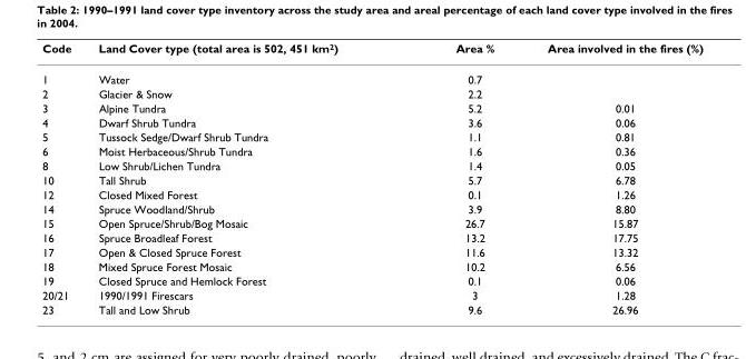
<table><thead><tr><td>Code</td><td>Land Cover type (total area is 502, 451 km<sup>2</sup>)</td><td>Area %</td><td>Area involved in the fires (%)</td></tr></thead><tbody><tr><td>1</td><td>Water</td><td>0.7</td><td></td></tr><tr><td>2</td><td>Glacier &amp; Snow</td><td>2.2</td><td></td></tr><tr><td>3</td><td>Alpine Tundra</td><td>5.2</td><td>0.01</td></tr><tr><td>4</td><td>Dwarf Shrub Tundra</td><td>3.6</td><td>0.06</td></tr><tr><td>5</td><td>Tussock Sedge/Dwarf Shrub Tundra</td><td>1.1</td><td>0.81</td></tr><tr><td>6</td><td>Moist Herbaceous/Shrub Tundra</td><td>1.6</td><td>0.36</td></tr><tr><td>8</td><td>Low Shrub/Lichen Tundra</td><td>1.4</td><td>0.05</td></tr><tr><td>10</td><td>Tall Shrub</td><td>5.7</td><td>6.78</td></tr><tr><td>12</td><td>Closed Mixed Forest</td><td>0.1</td><td>1.26</td></tr><tr><td>14</td><td>Spruce Woodland/Shrub</td><td>3.9</td><td>8.80</td></tr><tr><td>15</td><td>Open Spruce/Shrub/Bog Mosaic</td><td>26.7</td><td>15.87</td></tr><tr><td>16</td><td>Spruce Broadleaf Forest</td><td>13.2</td><td>17.75</td></tr><tr><td>17</td><td>Open &amp; Closed Spruce Forest</td><td>11.6</td><td>13.32</td></tr><tr><td>18</td><td>Mixed Spruce Forest Mosaic</td><td>10.2</td><td>6.56</td></tr><tr><td>19</td><td>Closed Spruce and Hemlock Forest</td><td>0.1</td><td>0.06</td></tr><tr><td>20/21</td><td>1990/1991 Firescars</td><td>3</td><td>1.28</td></tr><tr><td>23</td><td>Tall and Low Shrub</td><td>9.6</td><td>26.96</td></tr></tbody></table>